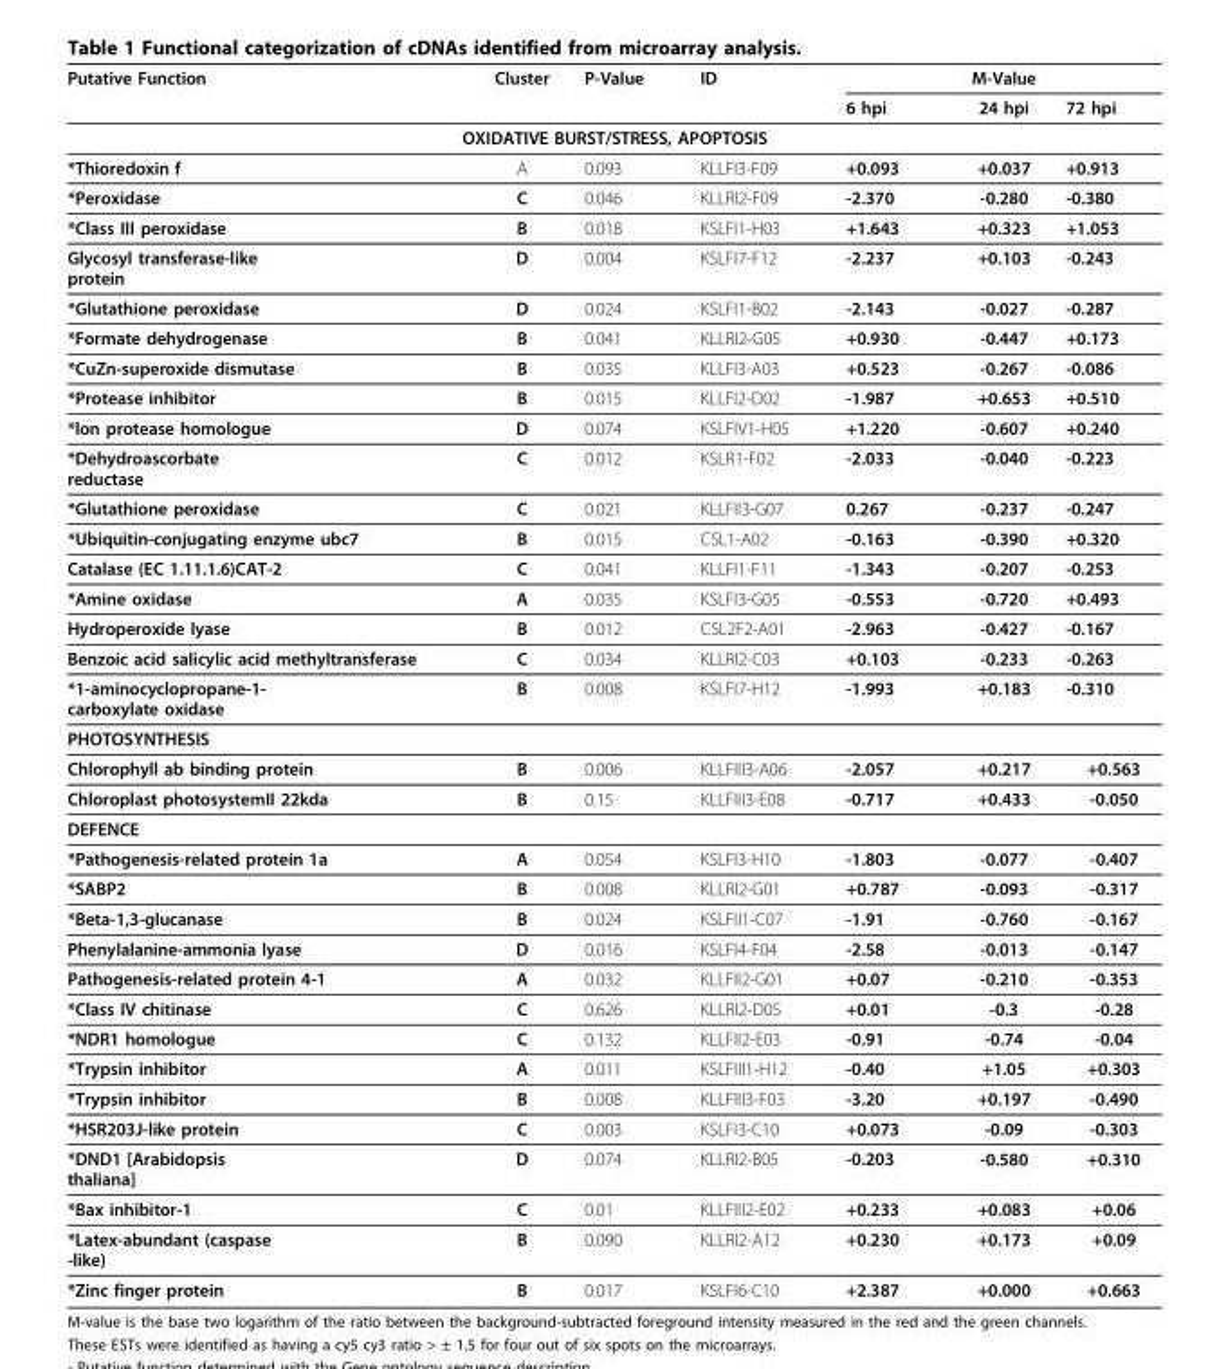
<table><thead><tr><td rowspan="2">Putative Function</td><td rowspan="2">Cluster</td><td rowspan="2">P-Value</td><td rowspan="2">ID</td><td colspan="3">M-Value</td></tr><tr><td>6 hpi</td><td>24 hpi</td><td>72 hpi</td></tr></thead><tbody><tr><td colspan="7">OXIDATIVE BURST/STRESS, APOPTOSIS</td></tr><tr><td>*Thioredoxin f</td><td>A</td><td>0.093</td><td>KLLFI3-F09</td><td>+0.093</td><td>+0.037</td><td>+0.913</td></tr><tr><td>*Peroxidase</td><td>C</td><td>0.046</td><td>KLLRI2-F09</td><td>-2.370</td><td>-0.280</td><td>-0.380</td></tr><tr><td>*Class III peroxidase</td><td>B</td><td>0.018</td><td>KSLFI1-H03</td><td>+1.643</td><td>+0.323</td><td>+1.053</td></tr><tr><td>Glycosyl transferase-like protein</td><td>D</td><td>0.004</td><td>KSLFI7-F12</td><td>-2.237</td><td>+0.103</td><td>-0.243</td></tr><tr><td>*Glutathione peroxidase</td><td>D</td><td>0.024</td><td>KSLFI1-B02</td><td>-2.143</td><td>-0.027</td><td>-0.287</td></tr><tr><td>*Formate dehydrogenase</td><td>B</td><td>0.041</td><td>KLLRI2-G05</td><td>+0.930</td><td>-0.447</td><td>+0.173</td></tr><tr><td>*CuZn-superoxide dismutase</td><td>B</td><td>0.035</td><td>KLLFI3-A03</td><td>+0.523</td><td>-0.267</td><td>-0.086</td></tr><tr><td>*Protease inhibitor</td><td>B</td><td>0.015</td><td>KLLFI2-D02</td><td>-1.987</td><td>+0.653</td><td>+0.510</td></tr><tr><td>*lon protease homologue</td><td>D</td><td>0.074</td><td>KSLFIV1-H05</td><td>+1.220</td><td>-0.607</td><td>+0.240</td></tr><tr><td>*Dehydroascorbate reductase</td><td>C</td><td>0.012</td><td>KSLR1-F02</td><td>-2.033</td><td>-0.040</td><td>-0.223</td></tr><tr><td>*Glutathione peroxidase</td><td>C</td><td>0.021</td><td>KLLFII3-G07</td><td>0.267</td><td>-0.237</td><td>-0.247</td></tr><tr><td>*Ubiquitin-conjugating enzyme ubc7</td><td>B</td><td>0.015</td><td>CSL1-A02</td><td>-0.163</td><td>-0.390</td><td>+0.320</td></tr><tr><td>Catalase (EC 1.11.1.6)CAT-2</td><td>C</td><td>0.041</td><td>KLLFI1-F11</td><td>-1.343</td><td>-0.207</td><td>-0.253</td></tr><tr><td>*Amine oxidase</td><td>A</td><td>0.035</td><td>KSLFI3-G05</td><td>-0.553</td><td>-0.720</td><td>+0.493</td></tr><tr><td>Hydroperoxide lyase</td><td>B</td><td>0.012</td><td>CSL2F2-A01</td><td>-2.963</td><td>-0.427</td><td>-0.167</td></tr><tr><td>Benzoic acid salicylic acid methyltransferase</td><td>C</td><td>0.034</td><td>KLLRI2-C03</td><td>+0.103</td><td>-0.233</td><td>-0.263</td></tr><tr><td>*1-aminocyclopropane-1- carboxylate oxidase</td><td>B</td><td>0.008</td><td>KSLFI7-H12</td><td>-1.993</td><td>+0.183</td><td>-0.310</td></tr><tr><td colspan="7">PHOTOSYNTHESIS</td></tr><tr><td>Chlorophyll ab binding protein</td><td>B</td><td>0.006</td><td>KLLFIII3-A06</td><td>-2.057</td><td>+0.217</td><td>+0.563</td></tr><tr><td>Chloroplast photosystemII 22kda</td><td>B</td><td>0.15</td><td>KLLFIII3-E08</td><td>-0.717</td><td>+0.433</td><td>-0.050</td></tr><tr><td colspan="7">DEFENCE</td></tr><tr><td>*Pathogenesis-related protein 1a</td><td>A</td><td>0.054</td><td>KSLFI3-H10</td><td>-1.803</td><td>-0.077</td><td>-0.407</td></tr><tr><td>*SABP2</td><td>B</td><td>0.008</td><td>KLLRI2-G01</td><td>+0.787</td><td>-0.093</td><td>-0.317</td></tr><tr><td>*Beta-1,3-glucanase</td><td>B</td><td>0.024</td><td>KSLFII1-C07</td><td>-1.91</td><td>-0.760</td><td>-0.167</td></tr><tr><td>Phenylalanine-ammonia lyase</td><td>D</td><td>0.016</td><td>KSLFI4-F04</td><td>-2.58</td><td>-0.013</td><td>-0.147</td></tr><tr><td>Pathogenesis-related protein 4-1</td><td>A</td><td>0.032</td><td>KLLFII2-G01</td><td>+0.07</td><td>-0.210</td><td>-0.353</td></tr><tr><td>*Class IV chitinase</td><td>C</td><td>0.626</td><td>KLLRI2-D05</td><td>+0.01</td><td>-0.3</td><td>-0.28</td></tr><tr><td>*NDR1 homologue</td><td>C</td><td>0.132</td><td>KLLFII2-E03</td><td>-0.91</td><td>-0.74</td><td>-0.04</td></tr><tr><td>*Trypsin inhibitor</td><td>A</td><td>0.011</td><td>KSLFIII1-H12</td><td>-0.40</td><td>+1.05</td><td>+0.303</td></tr><tr><td>*Trypsin inhibitor</td><td>B</td><td>0.008</td><td>KLLFIII3-F03</td><td>-3.20</td><td>+0.197</td><td>-0.490</td></tr><tr><td>*HSR203J-like protein</td><td>C</td><td>0.003</td><td>KSLFI3-C10</td><td>+0.073</td><td>-0.09</td><td>-0.303</td></tr><tr><td>*DND1 [Arabidopsis thaliana]</td><td>D</td><td>0.074</td><td>KLLRI2-B05</td><td>-0.203</td><td>-0.580</td><td>+0.310</td></tr><tr><td>*Bax inhibitor-1</td><td>C</td><td>0.01</td><td>KLLFIII2-E02</td><td>+0.233</td><td>+0.083</td><td>+0.06</td></tr><tr><td>*Latex-abundant (caspase -like)</td><td>B</td><td>0.090</td><td>KLLRI2-A12</td><td>+0.230</td><td>+0.173</td><td>+0.09</td></tr><tr><td>*Zinc finger protein</td><td>B</td><td>0.017</td><td>KSLFI6-C10</td><td>+2.387</td><td>+0.000</td><td>+0.663</td></tr></tbody></table>